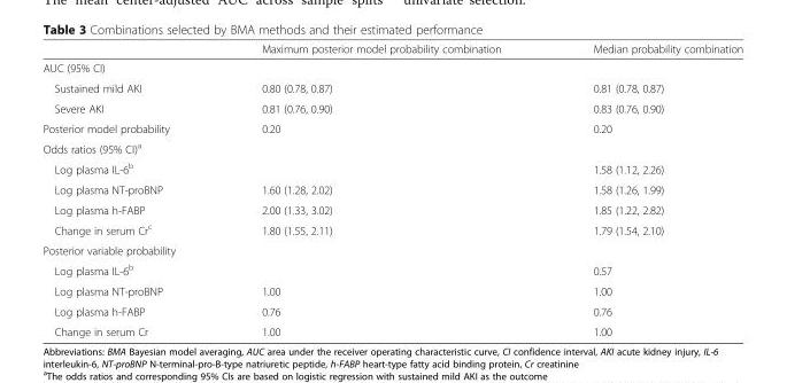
<table><thead><tr><td></td><td>Maximum posterior model probability combination</td><td>Median probability combination</td></tr></thead><tbody><tr><td colspan="3">AUC (95% CI)</td></tr><tr><td>Sustained mild AKI</td><td>0.80 (0.78, 0.87)</td><td>0.81 (0.78, 0.87)</td></tr><tr><td>Severe AKI</td><td>0.81 (0.76, 0.90)</td><td>0.83 (0.76, 0.90)</td></tr><tr><td>Posterior model probability</td><td>0.20</td><td>0.20</td></tr><tr><td colspan="3">Odds ratios (95% CI)<sup>a</sup></td></tr><tr><td>Log plasma IL-6<sup>b</sup></td><td></td><td>1.58 (1.12, 2.26)</td></tr><tr><td>Log plasma NT-proBNP</td><td>1.60 (1.28, 2.02)</td><td>1.58 (1.26, 1.99)</td></tr><tr><td>Log plasma h-FABP</td><td>2.00 (1.33, 3.02)</td><td>1.85 (1.22, 2.82)</td></tr><tr><td>Change in serum Cr<sup>c</sup></td><td>1.80 (1.55, 2.11)</td><td>1.79 (1.54, 2.10)</td></tr><tr><td colspan="3">Posterior variable probability</td></tr><tr><td>Log plasma IL-6<sup>b</sup></td><td></td><td>0.57</td></tr><tr><td>Log plasma NT-proBNP</td><td>1.00</td><td>1.00</td></tr><tr><td>Log plasma h-FABP</td><td>0.76</td><td>0.76</td></tr><tr><td>Change in serum Cr</td><td>1.00</td><td>1.00</td></tr></tbody></table>